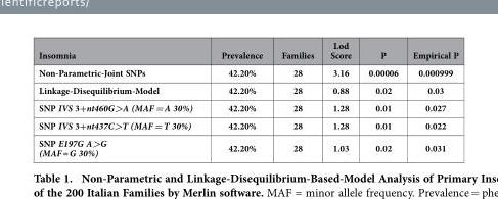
<table><thead><tr><td>Insomnia</td><td>Prevalence</td><td>Families</td><td>Lod Score</td><td>P</td><td>Empirical P</td></tr></thead><tbody><tr><td>Non-Parametric-Joint SNPs</td><td>42.20%</td><td>28</td><td>3.16</td><td>0.00006</td><td>0.000999</td></tr><tr><td>Linkage-Disequilibrium-Model</td><td>42.20%</td><td>28</td><td>0.88</td><td>0.02</td><td>0.03</td></tr><tr><td>SNP IVS 3+nt460G&gt;A (MAF = A 30%)</td><td>42.20%</td><td>28</td><td>1.28</td><td>0.01</td><td>0.027</td></tr><tr><td>SNP IVS 3+nt437C&gt;T (MAF = T 30%)</td><td>42.20%</td><td>28</td><td>1.28</td><td>0.01</td><td>0.022</td></tr><tr><td>SNP E197G A&gt;G (MAF = G 30%)</td><td>42.20%</td><td>28</td><td>1.03</td><td>0.02</td><td>0.031</td></tr></tbody></table>